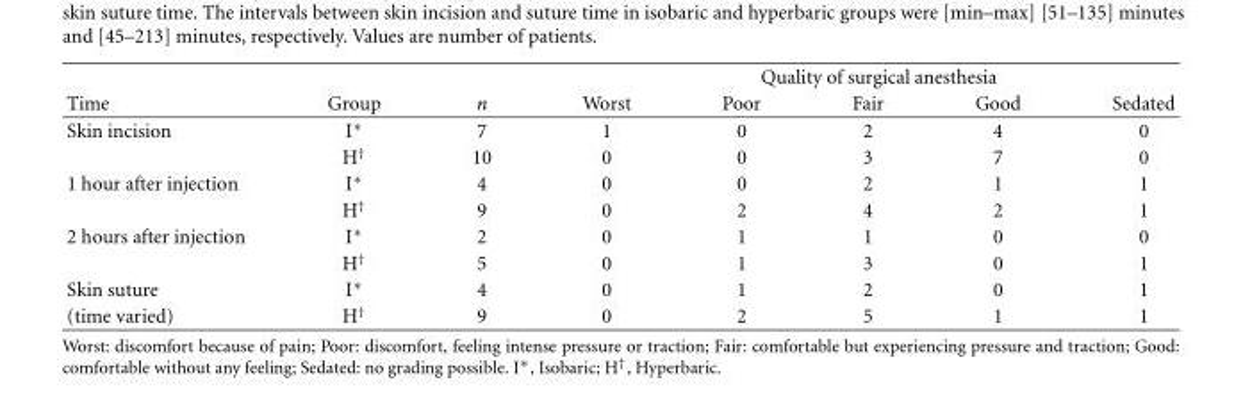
<table><thead><tr><td rowspan="2">Time</td><td rowspan="2">Group</td><td rowspan="2">n</td><td colspan="5">Quality of surgical anesthesia</td></tr><tr><td>Worst</td><td>Poor</td><td>Fair</td><td>Good</td><td>Sedated</td></tr></thead><tbody><tr><td rowspan="2">Skin incision</td><td>I∗</td><td>7</td><td>1</td><td>0</td><td>2</td><td>4</td><td>0</td></tr><tr><td>H<sup>†</sup></td><td>10</td><td>0</td><td>0</td><td>3</td><td>7</td><td>0</td></tr><tr><td rowspan="2">1 hour after injection</td><td>I∗</td><td>4</td><td>0</td><td>0</td><td>2</td><td>1</td><td>1</td></tr><tr><td>H<sup>†</sup></td><td>9</td><td>0</td><td>2</td><td>4</td><td>2</td><td>1</td></tr><tr><td rowspan="2">2 hours after injection</td><td>I∗</td><td>2</td><td>0</td><td>1</td><td>1</td><td>0</td><td>0</td></tr><tr><td>H<sup>†</sup></td><td>5</td><td>0</td><td>1</td><td>3</td><td>0</td><td>1</td></tr><tr><td>Skin suture</td><td>I∗</td><td>4</td><td>0</td><td>1</td><td>2</td><td>0</td><td>1</td></tr><tr><td>(time varied)</td><td>H<sup>†</sup></td><td>9</td><td>0</td><td>2</td><td>5</td><td>1</td><td>1</td></tr></tbody></table>